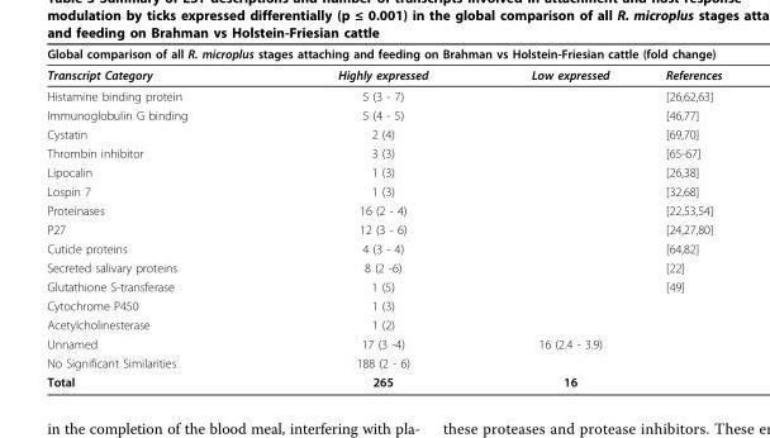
<table><thead><tr><td colspan="4">Global comparison of all R. microplus stages attaching and feeding on Brahman vs Holstein-Friesian cattle (fold change)</td></tr><tr><td>Transcript Category</td><td>Highly expressed</td><td>Low expressed</td><td>References</td></tr></thead><tbody><tr><td>Histamine binding protein</td><td>5 (3 - 7)</td><td></td><td>[26,62,63]</td></tr><tr><td>Immunoglobulin G binding</td><td>5 (4 - 5)</td><td></td><td>[46,77]</td></tr><tr><td>Cystatin</td><td>2 (4)</td><td></td><td>[69,70]</td></tr><tr><td>Thrombin inhibitor</td><td>3 (3)</td><td></td><td>[65-67]</td></tr><tr><td>Lipocalin</td><td>1 (3)</td><td></td><td>[26,38]</td></tr><tr><td>Lospin 7</td><td>1 (3)</td><td></td><td>[32,68]</td></tr><tr><td>Proteinases</td><td>16 (2 - 4)</td><td></td><td>[22,53,54]</td></tr><tr><td>P27</td><td>12 (3 - 6)</td><td></td><td>[24,27,80]</td></tr><tr><td>Cuticle proteins</td><td>4 (3 - 4)</td><td></td><td>[64,82]</td></tr><tr><td>Secreted salivary proteins</td><td>8 (2 -6)</td><td></td><td>[22]</td></tr><tr><td>Glutathione S-transferase</td><td>1 (5)</td><td></td><td>[49]</td></tr><tr><td>Cytochrome P450</td><td>1 (3)</td><td></td><td></td></tr><tr><td>Acetylcholinesterase</td><td>1 (2)</td><td></td><td></td></tr><tr><td>Unnamed</td><td>17 (3 -4)</td><td>16 (2.4 - 3.9)</td><td></td></tr><tr><td>No Significant Similarities</td><td>188 (2 - 6)</td><td></td><td></td></tr><tr><td>Total</td><td>265</td><td>16</td><td></td></tr></tbody></table>